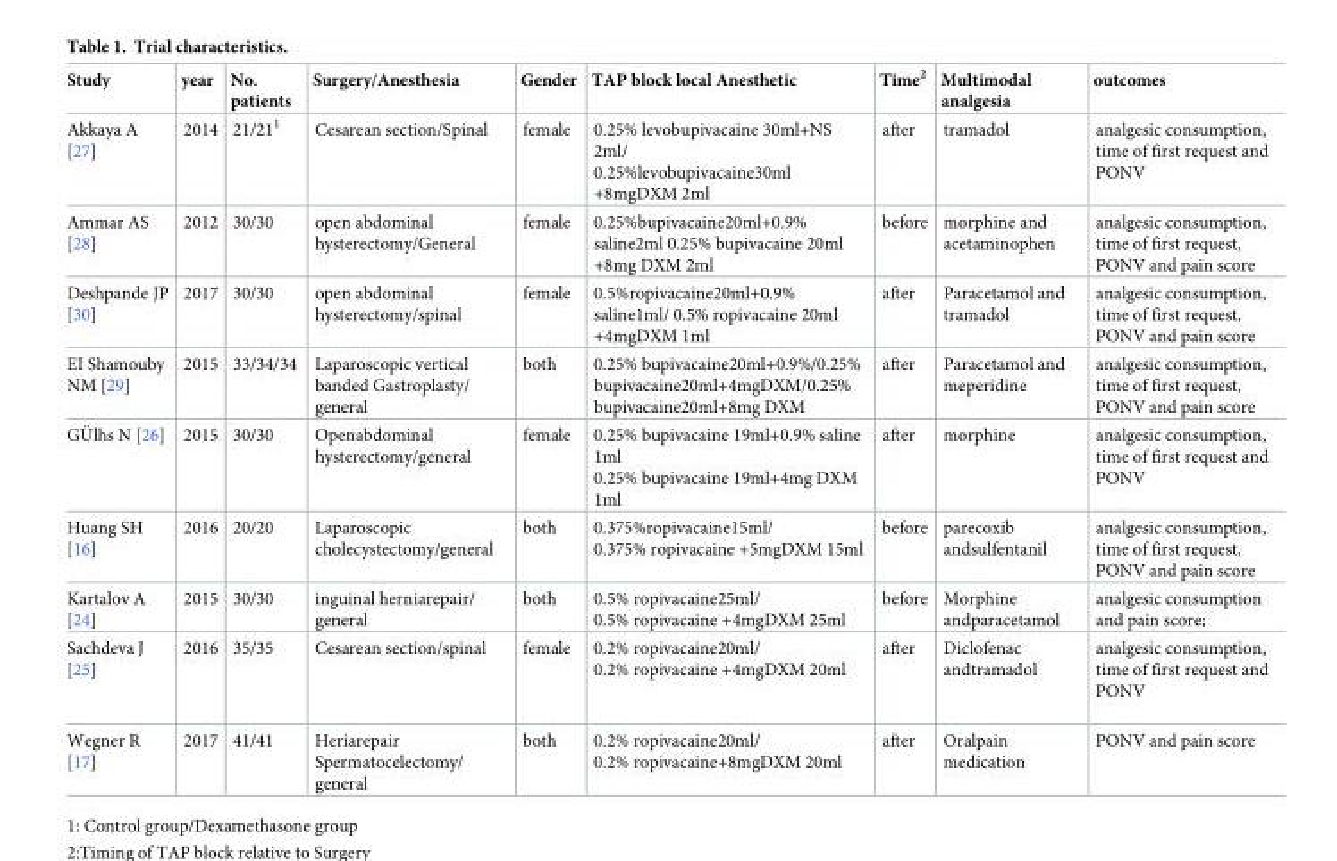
<table><thead><tr><td>Study</td><td>year</td><td>No. patients</td><td>Surgery/Anesthesia</td><td>Gender</td><td>TAP block local Anesthetic</td><td>Time<sup>2</sup></td><td>Multimodal analgesia</td><td>outcomes</td></tr></thead><tbody><tr><td>Akkaya A [27]</td><td>2014</td><td>21/21<sup>1</sup></td><td>Cesarean section/Spinal</td><td>female</td><td>0.25% levobupivacaine 30ml+NS 2ml/ 0.25%levobupivacaine30ml +8mgDXM 2ml</td><td>after</td><td>tramadol</td><td>analgesic consumption, time of first request and PONV</td></tr><tr><td>Ammar AS [28]</td><td>2012</td><td>30/30</td><td>open abdominal hysterectomy/General</td><td>female</td><td>0.25%bupivacaine20ml+0.9% saline2ml 0.25% bupivacaine 20ml +8mg DXM 2ml</td><td>before</td><td>morphine and acetaminophen</td><td>analgesic consumption, time of first request, PONV and pain score</td></tr><tr><td>Deshpande JP [30]</td><td>2017</td><td>30/30</td><td>open abdominal hysterectomy/spinal</td><td>female</td><td>0.5%ropivacaine20ml+0.9% saline1ml/ 0.5% ropivacaine 20ml +4mgDXM 1ml</td><td>after</td><td>Paracetamol and tramadol</td><td>analgesic consumption, time of first request, PONV and pain score</td></tr><tr><td>EI Shamouby NM [29]</td><td>2015</td><td>33/34/34</td><td>Laparoscopic vertical banded Gastroplasty/ general</td><td>both</td><td>0.25% bupivacaine20ml+0.9%/0.25% bupivacaine20ml+4mgDXM/0.25% bupivacaine20ml+8mg DXM</td><td>after</td><td>Paracetamol and meperidine</td><td>analgesic consumption, time of first request, PONV and pain score</td></tr><tr><td>GU¨ lhs N [26]</td><td>2015</td><td>30/30</td><td>Openabdominal hysterectomy/general</td><td>female</td><td>0.25% bupivacaine 19ml+0.9% saline 1ml 0.25% bupivacaine 19ml+4mg DXM 1ml</td><td>after</td><td>morphine</td><td>analgesic consumption, time of first request and PONV</td></tr><tr><td>Huang SH [16]</td><td>2016</td><td>20/20</td><td>Laparoscopic cholecystectomy/general</td><td>both</td><td>0.375%ropivacaine15ml/ 0.375% ropivacaine +5mgDXM 15ml</td><td>before</td><td>parecoxib andsulfentanil</td><td>analgesic consumption, time of first request, PONV and pain score</td></tr><tr><td>Kartalov A [24]</td><td>2015</td><td>30/30</td><td>inguinal herniarepair/ general</td><td>both</td><td>0.5% ropivacaine25ml/ 0.5% ropivacaine +4mgDXM 25ml</td><td>before</td><td>Morphine andparacetamol</td><td>analgesic consumption and pain score;</td></tr><tr><td>Sachdeva J [25]</td><td>2016</td><td>35/35</td><td>Cesarean section/spinal</td><td>female</td><td>0.2% ropivacaine20ml/ 0.2% ropivacaine +4mgDXM 20ml</td><td>after</td><td>Diclofenac andtramadol</td><td>analgesic consumption, time of first request and PONV</td></tr><tr><td>Wegner R [17]</td><td>2017</td><td>41/41</td><td>Heriarepair Spermatocelectomy/ general</td><td>both</td><td>0.2% ropivacaine20ml/ 0.2% ropivacaine+8mgDXM 20ml</td><td>after</td><td>Oralpain medication</td><td>PONV and pain score</td></tr></tbody></table>